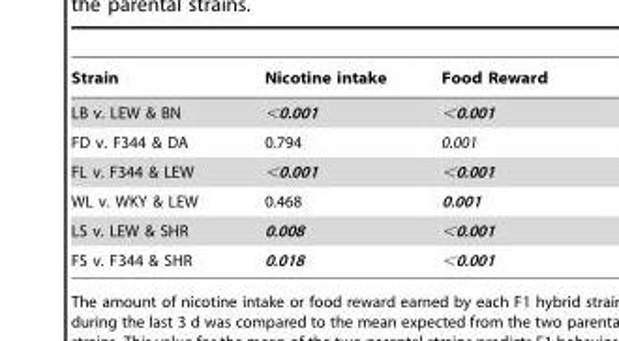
<table><thead><tr><td>Strain</td><td>Nicotine intake</td><td>Food Reward</td></tr></thead><tbody><tr><td>LB v. LEW &amp; BN</td><td>&lt;0.001</td><td>&lt;0.001</td></tr><tr><td>FD v. F344 &amp; DA</td><td>0.794</td><td>0.001</td></tr><tr><td>FL v. F344 &amp; LEW</td><td>&lt;0.001</td><td>&lt;0.001</td></tr><tr><td>WL v. WKY &amp; LEW</td><td>0.468</td><td>0.001</td></tr><tr><td>LS v. LEW &amp; SHR</td><td>0.008</td><td>&lt;0.001</td></tr><tr><td>FS v. F344 &amp; SHR</td><td>0.018</td><td>&lt;0.001</td></tr></tbody></table>